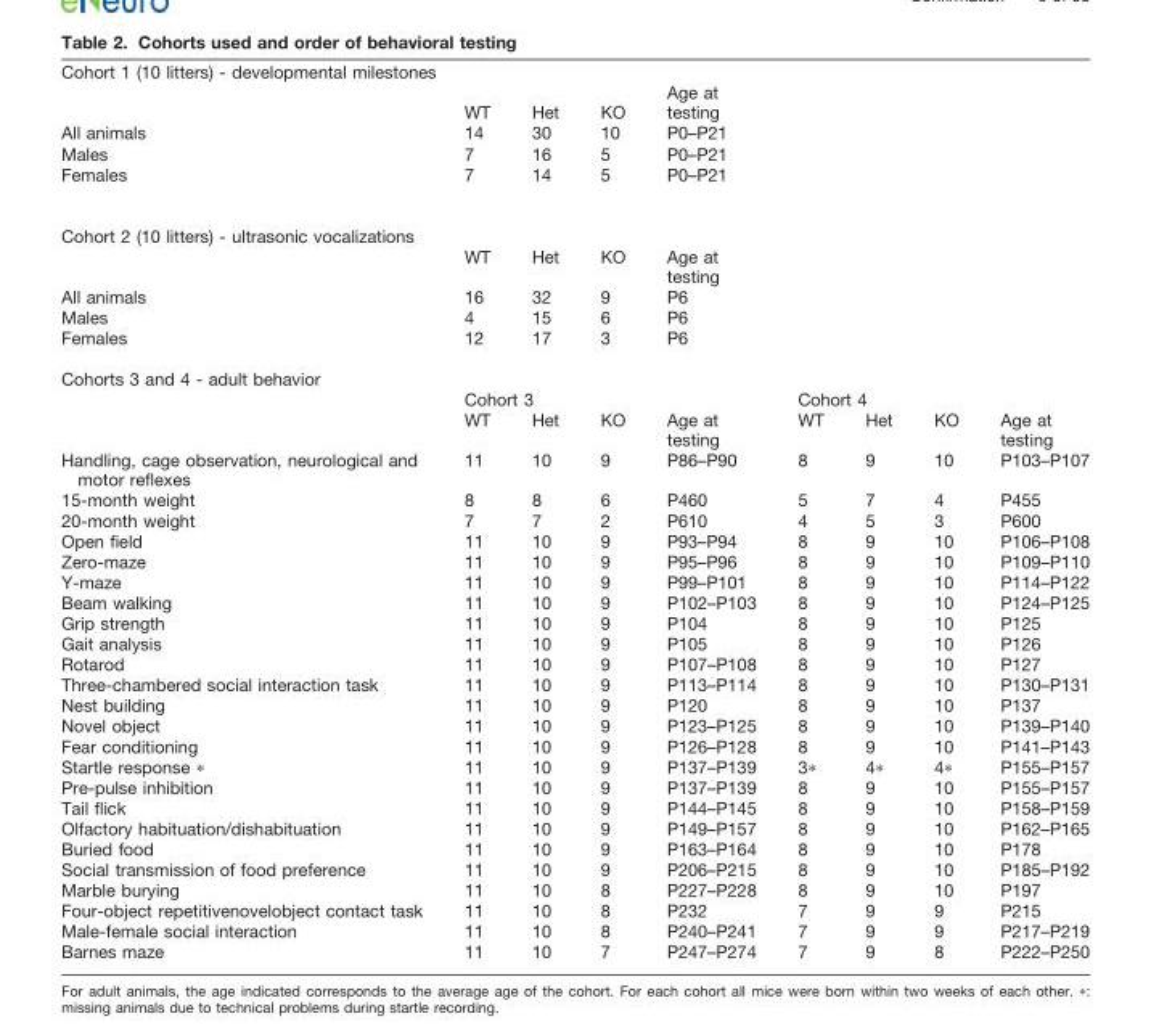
<table><thead><tr><td colspan="5">Cohort 1 (10 litters) - developmental milestones</td><td rowspan="2"></td><td rowspan="2"></td><td rowspan="2"></td><td rowspan="2"></td></tr><tr><td></td><td>WT</td><td>Het</td><td>KO</td><td>Age at testing</td></tr></thead><tbody><tr><td>All animals</td><td>14</td><td>30</td><td>10</td><td>P0–P21</td><td></td><td></td><td></td><td></td></tr><tr><td>Males</td><td>7</td><td>16</td><td>5</td><td>P0–P21</td><td></td><td></td><td></td><td></td></tr><tr><td>Females</td><td>7</td><td>14</td><td>5</td><td>P0–P21</td><td></td><td></td><td></td><td></td></tr><tr><td colspan="9">Cohort 2 (10 litters) - ultrasonic vocalizations</td></tr><tr><td></td><td>WT</td><td>Het</td><td>KO</td><td>Age at testing</td><td></td><td></td><td></td><td></td></tr><tr><td>All animals</td><td>16</td><td>32</td><td>9</td><td>P6</td><td></td><td></td><td></td><td></td></tr><tr><td>Males</td><td>4</td><td>15</td><td>6</td><td>P6</td><td></td><td></td><td></td><td></td></tr><tr><td>Females</td><td>12</td><td>17</td><td>3</td><td>P6</td><td></td><td></td><td></td><td></td></tr><tr><td colspan="9">Cohorts 3 and 4 - adult behavior</td></tr><tr><td></td><td colspan="4">Cohort 3</td><td colspan="4">Cohort 4</td></tr><tr><td></td><td>WT</td><td>Het</td><td>KO</td><td>Age at testing</td><td>WT</td><td>Het</td><td>KO</td><td>Age at testing</td></tr><tr><td>Handling, cage observation, neurological and motor reflexes</td><td>11</td><td>10</td><td>9</td><td>P86–P90</td><td>8</td><td>9</td><td>10</td><td>P103–P107</td></tr><tr><td>15-month weight</td><td>8</td><td>8</td><td>6</td><td>P460</td><td>5</td><td>7</td><td>4</td><td>P455</td></tr><tr><td>20-month weight</td><td>7</td><td>7</td><td>2</td><td>P610</td><td>4</td><td>5</td><td>3</td><td>P600</td></tr><tr><td>Open field</td><td>11</td><td>10</td><td>9</td><td>P93–P94</td><td>8</td><td>9</td><td>10</td><td>P106–P108</td></tr><tr><td>Zero-maze</td><td>11</td><td>10</td><td>9</td><td>P95–P96</td><td>8</td><td>9</td><td>10</td><td>P109–P110</td></tr><tr><td>Y-maze</td><td>11</td><td>10</td><td>9</td><td>P99–P101</td><td>8</td><td>9</td><td>10</td><td>P114–P122</td></tr><tr><td>Beam walking</td><td>11</td><td>10</td><td>9</td><td>P102–P103</td><td>8</td><td>9</td><td>10</td><td>P124–P125</td></tr><tr><td>Grip strength</td><td>11</td><td>10</td><td>9</td><td>P104</td><td>8</td><td>9</td><td>10</td><td>P125</td></tr><tr><td>Gait analysis</td><td>11</td><td>10</td><td>9</td><td>P105</td><td>8</td><td>9</td><td>10</td><td>P126</td></tr><tr><td>Rotarod</td><td>11</td><td>10</td><td>9</td><td>P107–P108</td><td>8</td><td>9</td><td>10</td><td>P127</td></tr><tr><td>Three-chambered social interaction task</td><td>11</td><td>10</td><td>9</td><td>P113–P114</td><td>8</td><td>9</td><td>10</td><td>P130–P131</td></tr><tr><td>Nest building</td><td>11</td><td>10</td><td>9</td><td>P120</td><td>8</td><td>9</td><td>10</td><td>P137</td></tr><tr><td>Novel object</td><td>11</td><td>10</td><td>9</td><td>P123–P125</td><td>8</td><td>9</td><td>10</td><td>P139–P140</td></tr><tr><td>Fear conditioning</td><td>11</td><td>10</td><td>9</td><td>P126–P128</td><td>8</td><td>9</td><td>10</td><td>P141–P143</td></tr><tr><td>Startle response *</td><td>11</td><td>10</td><td>9</td><td>P137–P139</td><td>3*</td><td>4*</td><td>4*</td><td>P155–P157</td></tr><tr><td>Pre-pulse inhibition</td><td>11</td><td>10</td><td>9</td><td>P137–P139</td><td>8</td><td>9</td><td>10</td><td>P155–P157</td></tr><tr><td>Tail flick</td><td>11</td><td>10</td><td>9</td><td>P144–P145</td><td>8</td><td>9</td><td>10</td><td>P158–P159</td></tr><tr><td>Olfactory habituation/dishabituation</td><td>11</td><td>10</td><td>9</td><td>P149–P157</td><td>8</td><td>9</td><td>10</td><td>P162–P165</td></tr><tr><td>Buried food</td><td>11</td><td>10</td><td>9</td><td>P163–P164</td><td>8</td><td>9</td><td>10</td><td>P178</td></tr><tr><td>Social transmission of food preference</td><td>11</td><td>10</td><td>9</td><td>P206–P215</td><td>8</td><td>9</td><td>10</td><td>P185–P192</td></tr><tr><td>Marble burying</td><td>11</td><td>10</td><td>8</td><td>P227–P228</td><td>8</td><td>9</td><td>10</td><td>P197</td></tr><tr><td>Four-object repetitivenovelobject contact task</td><td>11</td><td>10</td><td>8</td><td>P232</td><td>7</td><td>9</td><td>9</td><td>P215</td></tr><tr><td>Male-female social interaction</td><td>11</td><td>10</td><td>8</td><td>P240–P241</td><td>7</td><td>9</td><td>9</td><td>P217–P219</td></tr><tr><td>Barnes maze</td><td>11</td><td>10</td><td>7</td><td>P247–P274</td><td>7</td><td>9</td><td>8</td><td>P222–P250</td></tr></tbody></table>